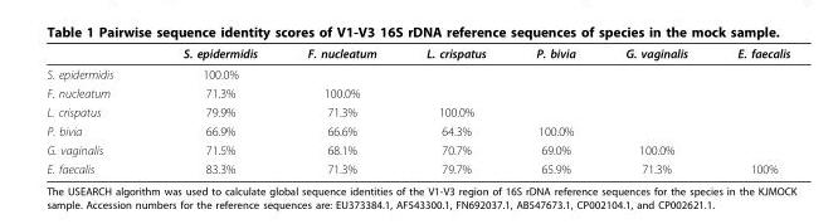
<table><thead><tr><td></td><td>S. epidermidis</td><td>F. nucleatum</td><td>L. crispatus</td><td>P. bivia</td><td>G. vaginalis</td><td>E. faecalis</td></tr></thead><tbody><tr><td>S. epidermidis</td><td>100.0%</td><td></td><td></td><td></td><td></td><td></td></tr><tr><td>F. nucleatum</td><td>71.3%</td><td>100.0%</td><td></td><td></td><td></td><td></td></tr><tr><td>L. crispatus</td><td>79.9%</td><td>71.3%</td><td>100.0%</td><td></td><td></td><td></td></tr><tr><td>P. bivia</td><td>66.9%</td><td>66.6%</td><td>64.3%</td><td>100.0%</td><td></td><td></td></tr><tr><td>G. vaginalis</td><td>71.5%</td><td>68.1%</td><td>70.7%</td><td>69.0%</td><td>100.0%</td><td></td></tr><tr><td>E. faecalis</td><td>83.3%</td><td>71.3%</td><td>79.7%</td><td>65.9%</td><td>71.3%</td><td>100%</td></tr></tbody></table>